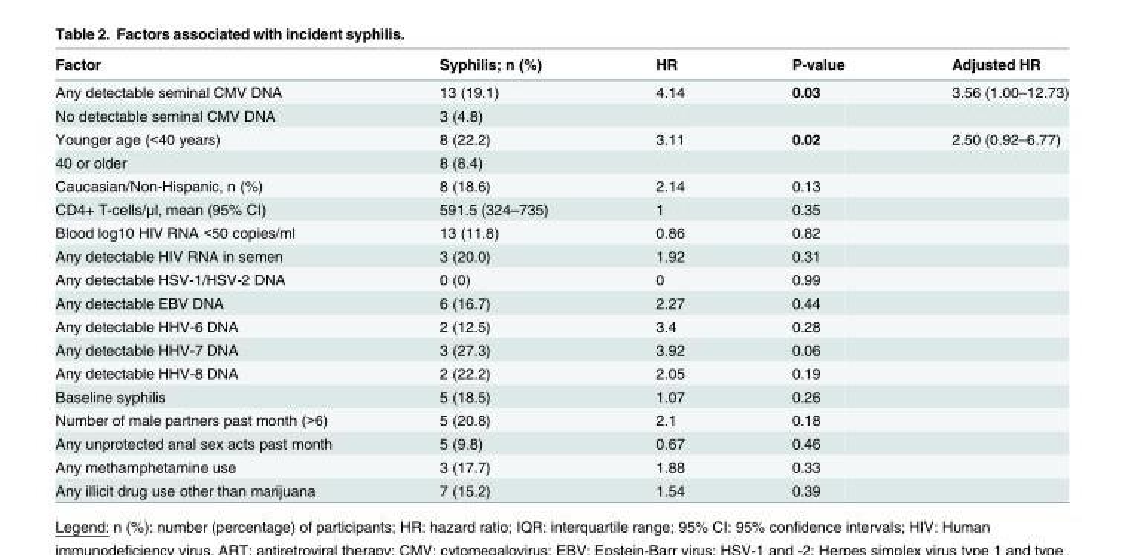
<table><thead><tr><td>Factor</td><td>Syphilis; n (%)</td><td>HR</td><td>P-value</td><td>Adjusted HR</td></tr></thead><tbody><tr><td>Any detectable seminal CMV DNA</td><td>13 (19.1)</td><td>4.14</td><td>0.03</td><td>3.56 (1.00–12.73)</td></tr><tr><td>No detectable seminal CMV DNA</td><td>3 (4.8)</td><td></td><td></td><td></td></tr><tr><td>Younger age (&lt;40 years)</td><td>8 (22.2)</td><td>3.11</td><td>0.02</td><td>2.50 (0.92–6.77)</td></tr><tr><td>40 or older</td><td>8 (8.4)</td><td></td><td></td><td></td></tr><tr><td>Caucasian/Non-Hispanic, n (%)</td><td>8 (18.6)</td><td>2.14</td><td>0.13</td><td></td></tr><tr><td>CD4+ T-cells/μl, mean (95% CI)</td><td>591.5 (324–735)</td><td>1</td><td>0.35</td><td></td></tr><tr><td>Blood log10 HIV RNA &lt;50 copies/ml</td><td>13 (11.8)</td><td>0.86</td><td>0.82</td><td></td></tr><tr><td>Any detectable HIV RNA in semen</td><td>3 (20.0)</td><td>1.92</td><td>0.31</td><td></td></tr><tr><td>Any detectable HSV-1/HSV-2 DNA</td><td>0 (0)</td><td>0</td><td>0.99</td><td></td></tr><tr><td>Any detectable EBV DNA</td><td>6 (16.7)</td><td>2.27</td><td>0.44</td><td></td></tr><tr><td>Any detectable HHV-6 DNA</td><td>2 (12.5)</td><td>3.4</td><td>0.28</td><td></td></tr><tr><td>Any detectable HHV-7 DNA</td><td>3 (27.3)</td><td>3.92</td><td>0.06</td><td></td></tr><tr><td>Any detectable HHV-8 DNA</td><td>2 (22.2)</td><td>2.05</td><td>0.19</td><td></td></tr><tr><td>Baseline syphilis</td><td>5 (18.5)</td><td>1.07</td><td>0.26</td><td></td></tr><tr><td>Number of male partners past month (&gt;6)</td><td>5 (20.8)</td><td>2.1</td><td>0.18</td><td></td></tr><tr><td>Any unprotected anal sex acts past month</td><td>5 (9.8)</td><td>0.67</td><td>0.46</td><td></td></tr><tr><td>Any methamphetamine use</td><td>3 (17.7)</td><td>1.88</td><td>0.33</td><td></td></tr><tr><td>Any illicit drug use other than marijuana</td><td>7 (15.2)</td><td>1.54</td><td>0.39</td><td></td></tr></tbody></table>